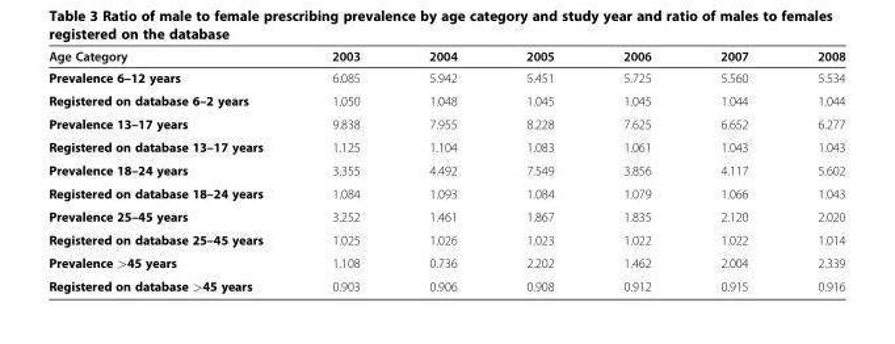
<table><thead><tr><td>Age Category</td><td>2003</td><td>2004</td><td>2005</td><td>2006</td><td>2007</td><td>2008</td></tr></thead><tbody><tr><td>Prevalence 6–12 years</td><td>6.085</td><td>5.942</td><td>5.451</td><td>5.725</td><td>5.560</td><td>5.534</td></tr><tr><td>Registered on database 6–2 years</td><td>1.050</td><td>1.048</td><td>1.045</td><td>1.045</td><td>1.044</td><td>1.044</td></tr><tr><td>Prevalence 13–17 years</td><td>9.838</td><td>7.955</td><td>8.228</td><td>7.625</td><td>6.652</td><td>6.277</td></tr><tr><td>Registered on database 13–17 years</td><td>1.125</td><td>1.104</td><td>1.083</td><td>1.061</td><td>1.043</td><td>1.043</td></tr><tr><td>Prevalence 18–24 years</td><td>3.355</td><td>4.492</td><td>7.549</td><td>3.856</td><td>4.117</td><td>5.602</td></tr><tr><td>Registered on database 18–24 years</td><td>1.084</td><td>1.093</td><td>1.084</td><td>1.079</td><td>1.066</td><td>1.043</td></tr><tr><td>Prevalence 25–45 years</td><td>3.252</td><td>1.461</td><td>1.867</td><td>1.835</td><td>2.120</td><td>2.020</td></tr><tr><td>Registered on database 25–45 years</td><td>1.025</td><td>1.026</td><td>1.023</td><td>1.022</td><td>1.022</td><td>1.014</td></tr><tr><td>Prevalence &gt;45 years</td><td>1.108</td><td>0.736</td><td>2.202</td><td>1.462</td><td>2.004</td><td>2.339</td></tr><tr><td>Registered on database &gt;45 years</td><td>0.903</td><td>0.906</td><td>0.908</td><td>0.912</td><td>0.915</td><td>0.916</td></tr></tbody></table>